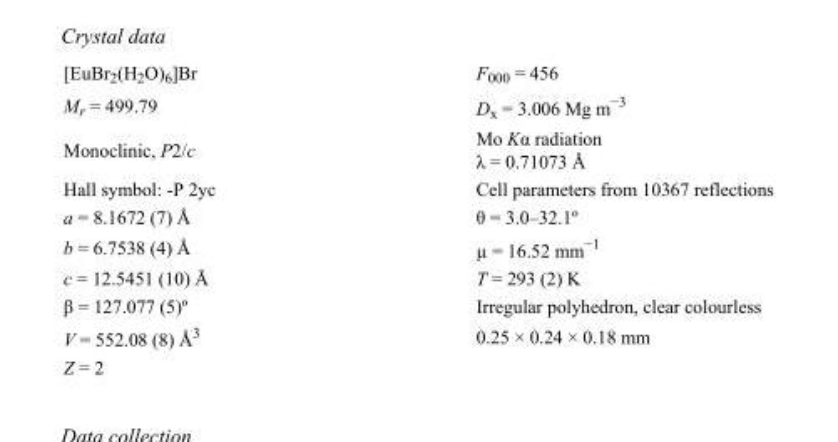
<table><tbody><tr><td>[EuBr<sub>2</sub>(H<sub>2</sub>O)<sub>6</sub>]Br</td><td>F<sub>000</sub> = 456</td></tr><tr><td>M<sub>r</sub> = 499.79</td><td>D<sub>x</sub> = 3.006 Mg m<sup>−3</sup></td></tr><tr><td>Monoclinic, P2/c</td><td>Mo Kα radiation λ = 0.71073 Å</td></tr><tr><td>Hall symbol: -P 2yc</td><td>Cell parameters from 10367 reflections</td></tr><tr><td>a = 8.1672 (7) Å</td><td>θ = 3.0–32.1º</td></tr><tr><td>b = 6.7538 (4) Å</td><td>µ = 16.52 mm<sup>−1</sup></td></tr><tr><td>c = 12.5451 (10) Å</td><td>T = 293 (2) K</td></tr><tr><td>β = 127.077 (5)º</td><td>Irregular polyhedron, clear colourless</td></tr><tr><td>V = 552.08 (8) Å<sup>3</sup></td><td>0.25 × 0.24 × 0.18 mm</td></tr><tr><td>Z = 2</td><td></td></tr></tbody></table>